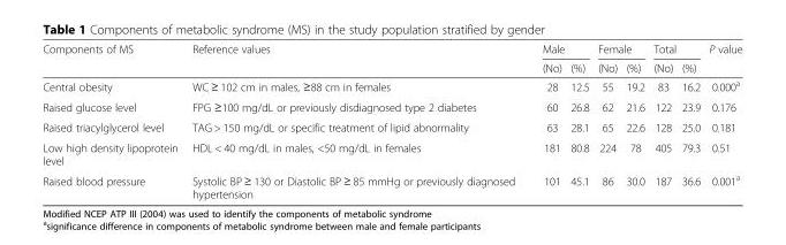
<table><thead><tr><td rowspan="2">Components of MS</td><td rowspan="2">Reference values</td><td colspan="2">Male</td><td colspan="2">Female</td><td colspan="2">Total</td><td rowspan="2">P value</td></tr><tr><td>(No)</td><td>(%)</td><td>(No)</td><td>(%)</td><td>(No)</td><td>(%)</td></tr></thead><tbody><tr><td>Central obesity</td><td>WC ≥ 102 cm in males, ≥88 cm in females</td><td>28</td><td>12.5</td><td>55</td><td>19.2</td><td>83</td><td>16.2</td><td>0.000<sup>a</sup></td></tr><tr><td>Raised glucose level</td><td>FPG ≥100 mg/dL or previously disdiagnosed type 2 diabetes</td><td>60</td><td>26.8</td><td>62</td><td>21.6</td><td>122</td><td>23.9</td><td>0.176</td></tr><tr><td>Raised triacylglycerol level</td><td>TAG &gt; 150 mg/dL or specific treatment of lipid abnormality</td><td>63</td><td>28.1</td><td>65</td><td>22.6</td><td>128</td><td>25.0</td><td>0.181</td></tr><tr><td>Low high density lipoprotein level</td><td>HDL &lt; 40 mg/dL in males, &lt;50 mg/dL in females</td><td>181</td><td>80.8</td><td>224</td><td>78</td><td>405</td><td>79.3</td><td>0.51</td></tr><tr><td>Raised blood pressure</td><td>Systolic BP ≥ 130 or Diastolic BP ≥ 85 mmHg or previously diagnosed hypertension</td><td>101</td><td>45.1</td><td>86</td><td>30.0</td><td>187</td><td>36.6</td><td>0.001<sup>a</sup></td></tr></tbody></table>